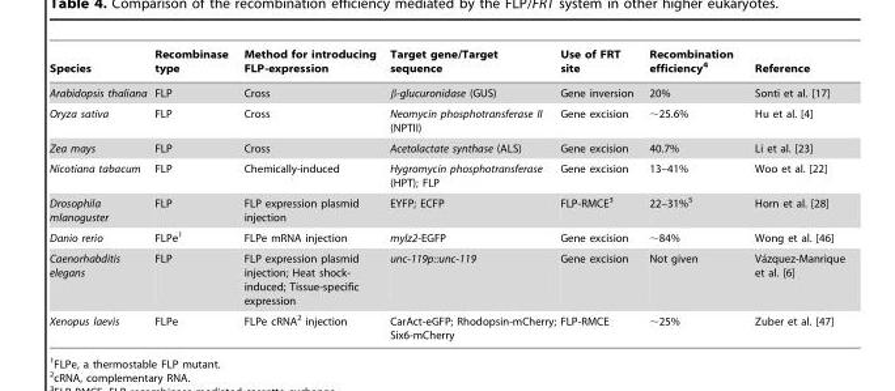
<table><thead><tr><td>Species</td><td>Recombinase type</td><td>Method for introducing FLP-expression</td><td>Target gene/Target sequence</td><td>Use of FRT site</td><td>Recombination efficiency<sup>4</sup></td><td>Reference</td></tr></thead><tbody><tr><td>Arabidopsis thaliana</td><td>FLP</td><td>Cross</td><td>β-glucuronidase (GUS)</td><td>Gene inversion</td><td>20%</td><td>Sonti et al. [17]</td></tr><tr><td>Oryza sativa</td><td>FLP</td><td>Cross</td><td>Neomycin phosphotransferase II (NPTII)</td><td>Gene excision</td><td>∼25.6%</td><td>Hu et al. [4]</td></tr><tr><td>Zea mays</td><td>FLP</td><td>Cross</td><td>Acetolactate synthase (ALS)</td><td>Gene excision</td><td>40.7%</td><td>Li et al. [23]</td></tr><tr><td>Nicotiana tabacum</td><td>FLP</td><td>Chemically-induced</td><td>Hygromycin phosphotransferase (HPT); FLP</td><td>Gene excision</td><td>13–41%</td><td>Woo et al. [22]</td></tr><tr><td>Drosophila mlanoguster</td><td>FLP</td><td>FLP expression plasmid injection</td><td>EYFP; ECFP</td><td>FLP-RMCE<sup>3</sup></td><td>22–31%<sup>5</sup></td><td>Horn et al. [28]</td></tr><tr><td>Danio rerio</td><td>FLPe<sup>1</sup></td><td>FLPe mRNA injection</td><td>mylz2-EGFP</td><td>Gene excision</td><td>∼84%</td><td>Wong et al. [46]</td></tr><tr><td>Caenorhabditis elegans</td><td>FLP</td><td>FLP expression plasmid injection; Heat shock- induced; Tissue-specific expression</td><td>unc-119p::unc-119</td><td>Gene excision</td><td>Not given</td><td>Va´zquez-Manrique et al. [6]</td></tr><tr><td>Xenopus laevis</td><td>FLPe</td><td>FLPe cRNA<sup>2</sup> injection</td><td>CarAct-eGFP; Rhodopsin-mCherry; Six6-mCherry</td><td>FLP-RMCE</td><td>∼25%</td><td>Zuber et al. [47]</td></tr></tbody></table>